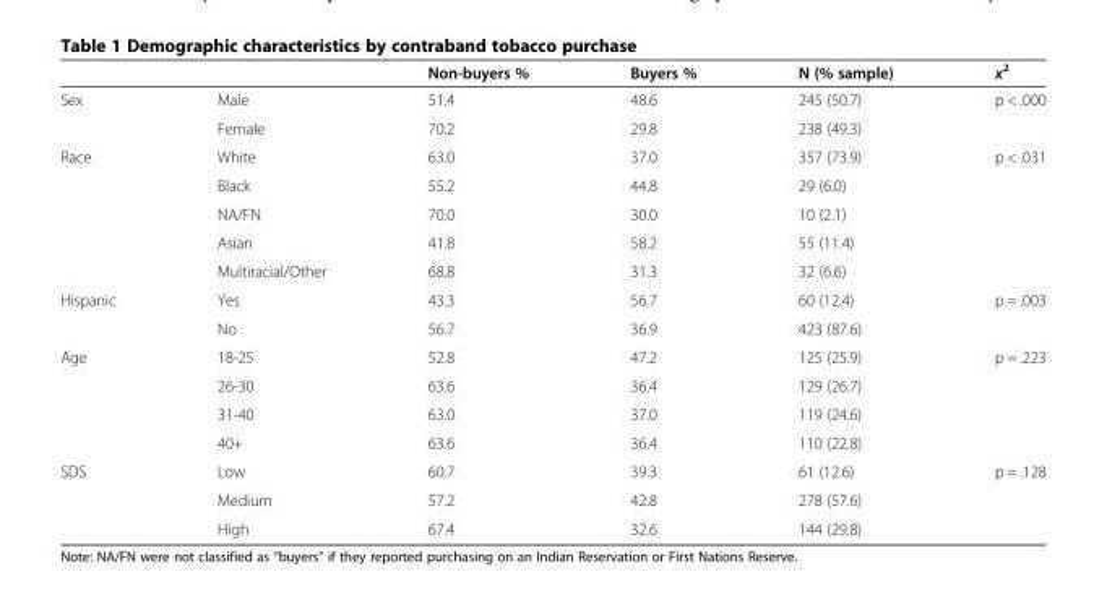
<table><thead><tr><td></td><td></td><td>Non-buyers %</td><td>Buyers %</td><td>N (% sample)</td><td>x<sup>2</sup></td></tr></thead><tbody><tr><td rowspan="2">Sex</td><td>Male</td><td>51.4</td><td>48.6</td><td>245 (50.7)</td><td>p &lt; .000</td></tr><tr><td>Female</td><td>70.2</td><td>29.8</td><td>238 (49.3)</td><td></td></tr><tr><td rowspan="5">Race</td><td>White</td><td>63.0</td><td>37.0</td><td>357 (73.9)</td><td>p &lt; .031</td></tr><tr><td>Black</td><td>55.2</td><td>44.8</td><td>29 (6.0)</td><td></td></tr><tr><td>NA/FN</td><td>70.0</td><td>30.0</td><td>10 (2.1)</td><td></td></tr><tr><td>Asian</td><td>41.8</td><td>58.2</td><td>55 (11.4)</td><td></td></tr><tr><td>Multiracial/Other</td><td>68.8</td><td>31.3</td><td>32 (6.6)</td><td></td></tr><tr><td rowspan="2">Hispanic</td><td>Yes</td><td>43.3</td><td>56.7</td><td>60 (12.4)</td><td>p = .003</td></tr><tr><td>No</td><td>56.7</td><td>36.9</td><td>423 (87.6)</td><td></td></tr><tr><td rowspan="4">Age</td><td>18-25</td><td>52.8</td><td>47.2</td><td>125 (25.9)</td><td>p = .223</td></tr><tr><td>26-30</td><td>63.6</td><td>36.4</td><td>129 (26.7)</td><td></td></tr><tr><td>31-40</td><td>63.0</td><td>37.0</td><td>119 (24.6)</td><td></td></tr><tr><td>40+</td><td>63.6</td><td>36.4</td><td>110 (22.8)</td><td></td></tr><tr><td rowspan="3">SDS</td><td>Low</td><td>60.7</td><td>39.3</td><td>61 (12.6)</td><td>p = .128</td></tr><tr><td>Medium</td><td>57.2</td><td>42.8</td><td>278 (57.6)</td><td></td></tr><tr><td>High</td><td>67.4</td><td>32.6</td><td>144 (29.8)</td><td></td></tr></tbody></table>